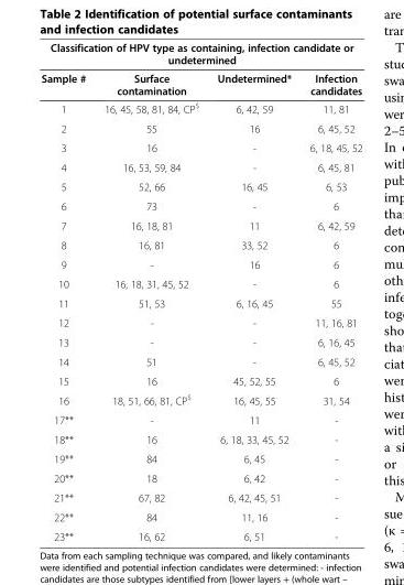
<table><thead><tr><td colspan="4">Classification of HPV type as containing, infection candidate or undetermined</td></tr><tr><td>Sample #</td><td>Surface contamination</td><td>Undetermined*</td><td>Infection candidates</td></tr></thead><tbody><tr><td>1</td><td>16, 45, 58, 81, 84, CP<sup>$</sup></td><td>6, 42, 59</td><td>11, 81</td></tr><tr><td>2</td><td>55</td><td>16</td><td>6, 45, 52</td></tr><tr><td>3</td><td>16</td><td>-</td><td>6, 18, 45, 52</td></tr><tr><td>4</td><td>16, 53, 59, 84</td><td>-</td><td>6, 45, 81</td></tr><tr><td>5</td><td>52, 66</td><td>16, 45</td><td>6, 53</td></tr><tr><td>6</td><td>73</td><td>-</td><td>6</td></tr><tr><td>7</td><td>16, 18, 81</td><td>11</td><td>6, 42, 59</td></tr><tr><td>8</td><td>16, 81</td><td>33, 52</td><td>6</td></tr><tr><td>9</td><td>-</td><td>16</td><td>6</td></tr><tr><td>10</td><td>16, 18, 31, 45, 52</td><td>-</td><td>6</td></tr><tr><td>11</td><td>51, 53</td><td>6, 16, 45</td><td>55</td></tr><tr><td>12</td><td>-</td><td>-</td><td>11, 16, 81</td></tr><tr><td>13</td><td>-</td><td>-</td><td>6, 16, 45</td></tr><tr><td>14</td><td>51</td><td>-</td><td>6, 45, 52</td></tr><tr><td>15</td><td>16</td><td>45, 52, 55</td><td>6</td></tr><tr><td>16</td><td>18, 51, 66, 81, CP<sup>$</sup></td><td>16, 45, 55</td><td>31, 54</td></tr><tr><td>17**</td><td>-</td><td>11</td><td>-</td></tr><tr><td>18**</td><td>16</td><td>6, 18, 33, 45, 52</td><td>-</td></tr><tr><td>19**</td><td>84</td><td>6, 45</td><td>-</td></tr><tr><td>20**</td><td>18</td><td>6, 42</td><td>-</td></tr><tr><td>21**</td><td>67, 82</td><td>6, 42, 45, 51</td><td>-</td></tr><tr><td>22**</td><td>84</td><td>11, 16</td><td>-</td></tr><tr><td>23**</td><td>16, 62</td><td>6, 51</td><td>-</td></tr></tbody></table>